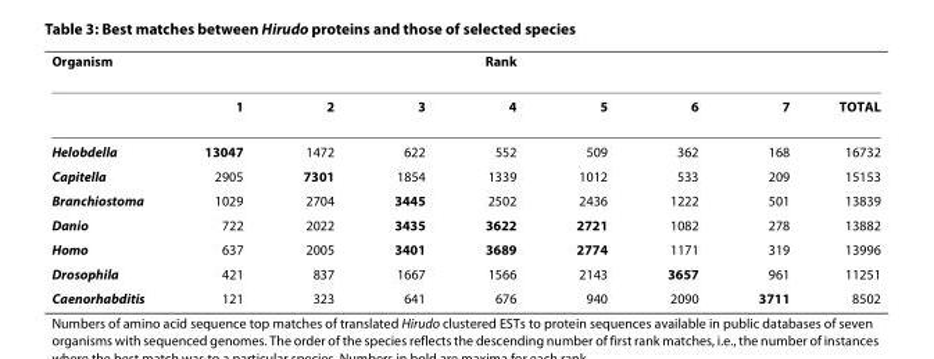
<table><thead><tr><td>Organism</td><td></td><td></td><td></td><td>Rank</td><td></td><td></td><td></td><td></td></tr></thead><tbody><tr><td></td><td>1</td><td>2</td><td>3</td><td>4</td><td>5</td><td>6</td><td>7</td><td>TOTAL</td></tr><tr><td>Helobdella</td><td>13047</td><td>1472</td><td>622</td><td>552</td><td>509</td><td>362</td><td>168</td><td>16732</td></tr><tr><td>Capitella</td><td>2905</td><td>7301</td><td>1854</td><td>1339</td><td>1012</td><td>533</td><td>209</td><td>15153</td></tr><tr><td>Branchiostoma</td><td>1029</td><td>2704</td><td>3445</td><td>2502</td><td>2436</td><td>1222</td><td>501</td><td>13839</td></tr><tr><td>Danio</td><td>722</td><td>2022</td><td>3435</td><td>3622</td><td>2721</td><td>1082</td><td>278</td><td>13882</td></tr><tr><td>Homo</td><td>637</td><td>2005</td><td>3401</td><td>3689</td><td>2774</td><td>1171</td><td>319</td><td>13996</td></tr><tr><td>Drosophila</td><td>421</td><td>837</td><td>1667</td><td>1566</td><td>2143</td><td>3657</td><td>961</td><td>11251</td></tr><tr><td>Caenorhabditis</td><td>121</td><td>323</td><td>641</td><td>676</td><td>940</td><td>2090</td><td>3711</td><td>8502</td></tr></tbody></table>